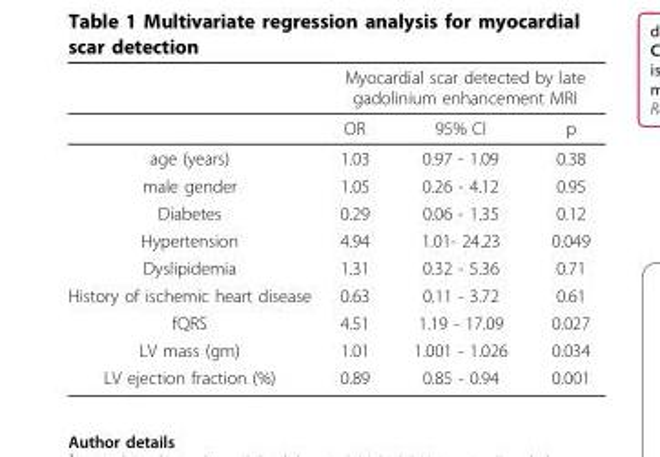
<table><thead><tr><td rowspan="2"></td><td colspan="3">Myocardial scar detected by late gadolinium enhancement MRI</td></tr><tr><td>OR</td><td>95% CI</td><td>p</td></tr></thead><tbody><tr><td>age (years)</td><td>1.03</td><td>0.97 - 1.09</td><td>0.38</td></tr><tr><td>male gender</td><td>1.05</td><td>0.26 - 4.12</td><td>0.95</td></tr><tr><td>Diabetes</td><td>0.29</td><td>0.06 - 1.35</td><td>0.12</td></tr><tr><td>Hypertension</td><td>4.94</td><td>1.01- 24.23</td><td>0.049</td></tr><tr><td>Dyslipidemia</td><td>1.31</td><td>0.32 - 5.36</td><td>0.71</td></tr><tr><td>History of ischemic heart disease</td><td>0.63</td><td>0.11 - 3.72</td><td>0.61</td></tr><tr><td>fQRS</td><td>4.51</td><td>1.19 - 17.09</td><td>0.027</td></tr><tr><td>LV mass (gm)</td><td>1.01</td><td>1.001 - 1.026</td><td>0.034</td></tr><tr><td>LV ejection fraction (%)</td><td>0.89</td><td>0.85 - 0.94</td><td>0.001</td></tr></tbody></table>